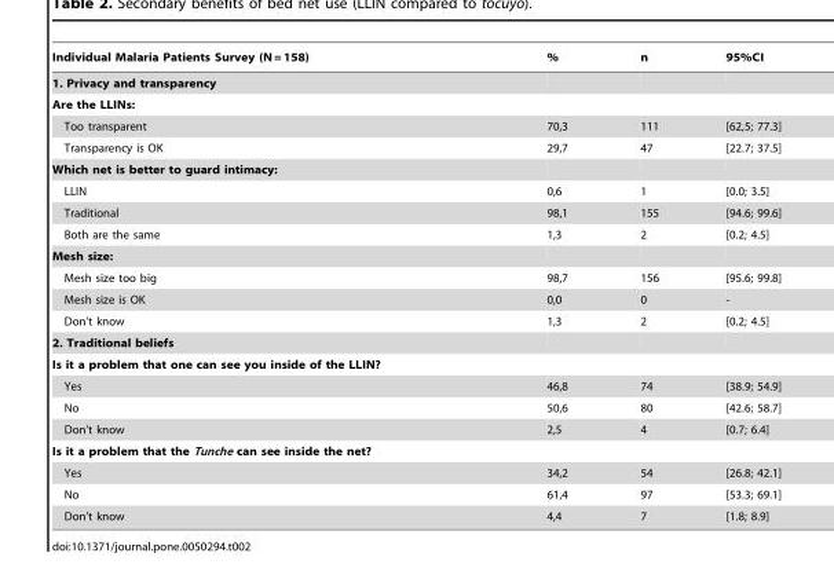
<table><thead><tr><td>Individual Malaria Patients Survey (N = 158)</td><td>%</td><td>n</td><td>95%CI</td></tr></thead><tbody><tr><td colspan="4">1. Privacy and transparency</td></tr><tr><td colspan="4">Are the LLINs:</td></tr><tr><td>Too transparent</td><td>70,3</td><td>111</td><td>[62,5; 77.3]</td></tr><tr><td>Transparency is OK</td><td>29,7</td><td>47</td><td>[22.7; 37.5]</td></tr><tr><td colspan="4">Which net is better to guard intimacy:</td></tr><tr><td>LLIN</td><td>0,6</td><td>1</td><td>[0.0; 3.5]</td></tr><tr><td>Traditional</td><td>98,1</td><td>155</td><td>[94.6; 99.6]</td></tr><tr><td>Both are the same</td><td>1,3</td><td>2</td><td>[0.2; 4.5]</td></tr><tr><td colspan="4">Mesh size:</td></tr><tr><td>Mesh size too big</td><td>98,7</td><td>156</td><td>[95.6; 99.8]</td></tr><tr><td>Mesh size is OK</td><td>0,0</td><td>0</td><td>-</td></tr><tr><td>Don’t know</td><td>1,3</td><td>2</td><td>[0.2; 4.5]</td></tr><tr><td colspan="4">2. Traditional beliefs</td></tr><tr><td colspan="4">Is it a problem that one can see you inside of the LLIN?</td></tr><tr><td>Yes</td><td>46,8</td><td>74</td><td>[38.9; 54.9]</td></tr><tr><td>No</td><td>50,6</td><td>80</td><td>[42.6; 58.7]</td></tr><tr><td>Don’t know</td><td>2,5</td><td>4</td><td>[0.7; 6.4]</td></tr><tr><td colspan="4">Is it a problem that the Tunche can see inside the net?</td></tr><tr><td>Yes</td><td>34,2</td><td>54</td><td>[26.8; 42.1]</td></tr><tr><td>No</td><td>61,4</td><td>97</td><td>[53.3; 69.1]</td></tr><tr><td>Don’t know</td><td>4,4</td><td>7</td><td>[1.8; 8.9]</td></tr></tbody></table>